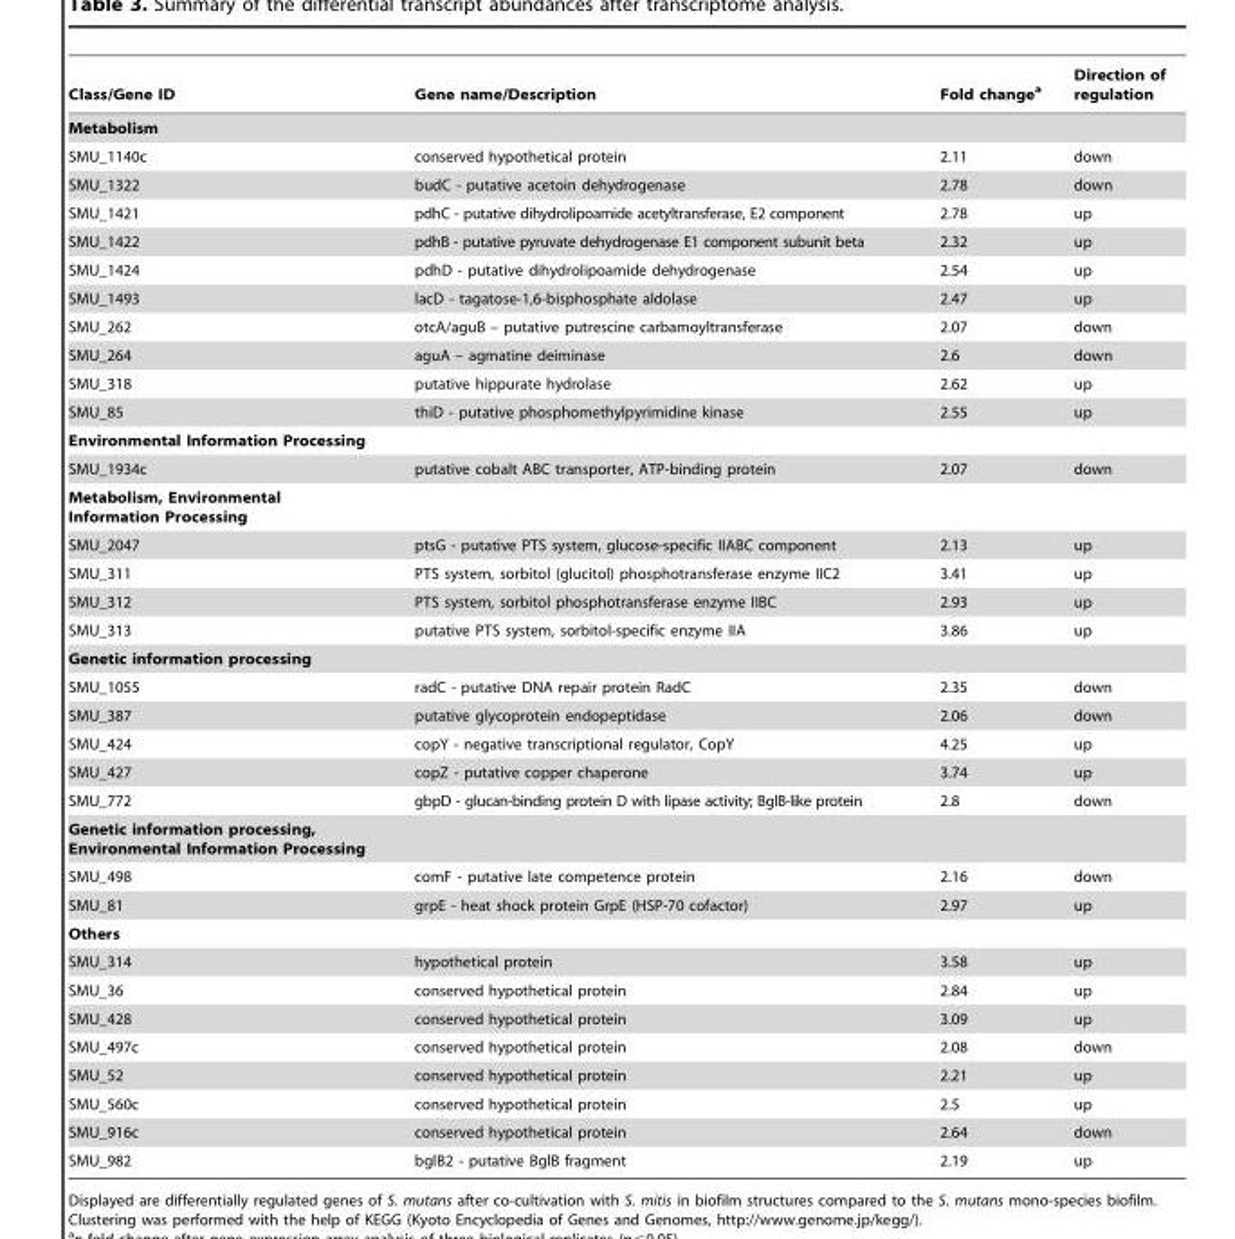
<table><thead><tr><td>Class/Gene ID</td><td>Gene name/Description</td><td>Fold change<sup>a</sup></td><td>Direction of regulation</td></tr></thead><tbody><tr><td colspan="4">Metabolism</td></tr><tr><td>SMU_1140c</td><td>conserved hypothetical protein</td><td>2.11</td><td>down</td></tr><tr><td>SMU_1322</td><td>budC - putative acetoin dehydrogenase</td><td>2.78</td><td>down</td></tr><tr><td>SMU_1421</td><td>pdhC - putative dihydrolipoamide acetyltransferase, E2 component</td><td>2.78</td><td>up</td></tr><tr><td>SMU_1422</td><td>pdhB - putative pyruvate dehydrogenase E1 component subunit beta</td><td>2.32</td><td>up</td></tr><tr><td>SMU_1424</td><td>pdhD - putative dihydrolipoamide dehydrogenase</td><td>2.54</td><td>up</td></tr><tr><td>SMU_1493</td><td>lacD - tagatose-1,6-bisphosphate aldolase</td><td>2.47</td><td>up</td></tr><tr><td>SMU_262</td><td>otcA/aguB – putative putrescine carbamoyltransferase</td><td>2.07</td><td>down</td></tr><tr><td>SMU_264</td><td>aguA – agmatine deiminase</td><td>2.6</td><td>down</td></tr><tr><td>SMU_318</td><td>putative hippurate hydrolase</td><td>2.62</td><td>up</td></tr><tr><td>SMU_85</td><td>thiD - putative phosphomethylpyrimidine kinase</td><td>2.55</td><td>up</td></tr><tr><td colspan="4">Environmental Information Processing</td></tr><tr><td>SMU_1934c</td><td>putative cobalt ABC transporter, ATP-binding protein</td><td>2.07</td><td>down</td></tr><tr><td colspan="4">Metabolism, Environmental Information Processing</td></tr><tr><td>SMU_2047</td><td>ptsG - putative PTS system, glucose-specific IIABC component</td><td>2.13</td><td>up</td></tr><tr><td>SMU_311</td><td>PTS system, sorbitol (glucitol) phosphotransferase enzyme IIC2</td><td>3.41</td><td>up</td></tr><tr><td>SMU_312</td><td>PTS system, sorbitol phosphotransferase enzyme IIBC</td><td>2.93</td><td>up</td></tr><tr><td>SMU_313</td><td>putative PTS system, sorbitol-specific enzyme IIA</td><td>3.86</td><td>up</td></tr><tr><td colspan="4">Genetic information processing</td></tr><tr><td>SMU_1055</td><td>radC - putative DNA repair protein RadC</td><td>2.35</td><td>down</td></tr><tr><td>SMU_387</td><td>putative glycoprotein endopeptidase</td><td>2.06</td><td>down</td></tr><tr><td>SMU_424</td><td>copY - negative transcriptional regulator, CopY</td><td>4.25</td><td>up</td></tr><tr><td>SMU_427</td><td>copZ - putative copper chaperone</td><td>3.74</td><td>up</td></tr><tr><td>SMU_772</td><td>gbpD - glucan-binding protein D with lipase activity; BglB-like protein</td><td>2.8</td><td>down</td></tr><tr><td colspan="4">Genetic information processing, Environmental Information Processing</td></tr><tr><td>SMU_498</td><td>comF - putative late competence protein</td><td>2.16</td><td>down</td></tr><tr><td>SMU_81</td><td>grpE - heat shock protein GrpE (HSP-70 cofactor)</td><td>2.97</td><td>up</td></tr><tr><td colspan="4">Others</td></tr><tr><td>SMU_314</td><td>hypothetical protein</td><td>3.58</td><td>up</td></tr><tr><td>SMU_36</td><td>conserved hypothetical protein</td><td>2.84</td><td>up</td></tr><tr><td>SMU_428</td><td>conserved hypothetical protein</td><td>3.09</td><td>up</td></tr><tr><td>SMU_497c</td><td>conserved hypothetical protein</td><td>2.08</td><td>down</td></tr><tr><td>SMU_52</td><td>conserved hypothetical protein</td><td>2.21</td><td>up</td></tr><tr><td>SMU_560c</td><td>conserved hypothetical protein</td><td>2.5</td><td>up</td></tr><tr><td>SMU_916c</td><td>conserved hypothetical protein</td><td>2.64</td><td>down</td></tr><tr><td>SMU_982</td><td>bglB2 - putative BglB fragment</td><td>2.19</td><td>up</td></tr></tbody></table>